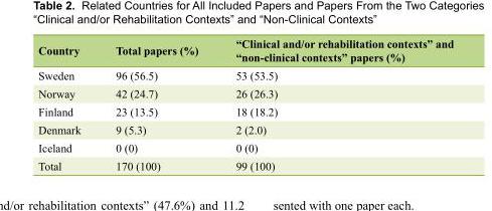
<table><thead><tr><td>Country</td><td>Total papers (%)</td><td>“Clinical and/or rehabilitation contexts” and “non-clinical contexts” papers (%)</td></tr></thead><tbody><tr><td>Sweden</td><td>96 (56.5)</td><td>53 (53.5)</td></tr><tr><td>Norway</td><td>42 (24.7)</td><td>26 (26.3)</td></tr><tr><td>Finland</td><td>23 (13.5)</td><td>18 (18.2)</td></tr><tr><td>Denmark</td><td>9 (5.3)</td><td>2 (2.0)</td></tr><tr><td>Iceland</td><td>0 (0)</td><td>0 (0)</td></tr><tr><td>Total</td><td>170 (100)</td><td>99 (100)</td></tr></tbody></table>